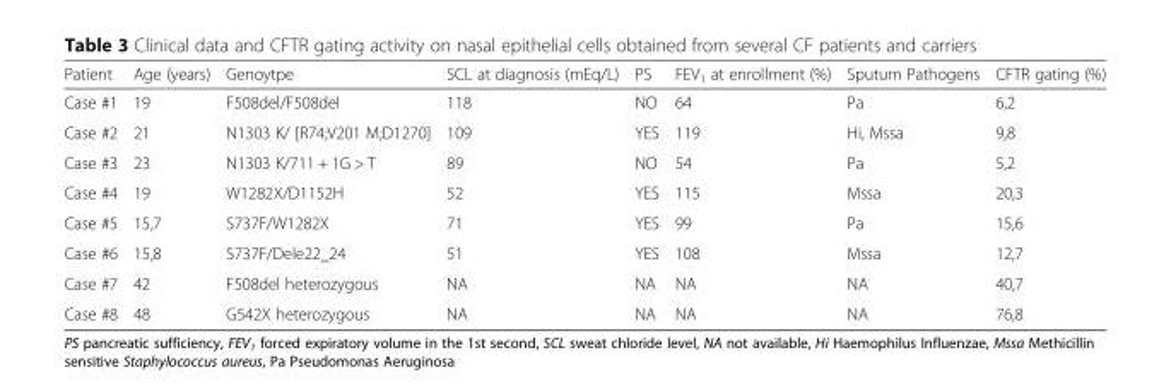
<table><thead><tr><td>Patient</td><td>Age (years)</td><td>Genoytpe</td><td>SCL at diagnosis (mEq/L)</td><td>PS</td><td>FEV<sub>1</sub> at enrollment (%)</td><td>Sputum Pathogens</td><td>CFTR gating (%)</td></tr></thead><tbody><tr><td>Case #1</td><td>19</td><td>F508del/F508del</td><td>118</td><td>NO</td><td>64</td><td>Pa</td><td>6,2</td></tr><tr><td>Case #2</td><td>21</td><td>N1303 K/ [R74;V201 M;D1270]</td><td>109</td><td>YES</td><td>119</td><td>Hi, Mssa</td><td>9,8</td></tr><tr><td>Case #3</td><td>23</td><td>N1303 K/711 + 1G &gt; T</td><td>89</td><td>NO</td><td>54</td><td>Pa</td><td>5,2</td></tr><tr><td>Case #4</td><td>19</td><td>W1282X/D1152H</td><td>52</td><td>YES</td><td>115</td><td>Mssa</td><td>20,3</td></tr><tr><td>Case #5</td><td>15,7</td><td>S737F/W1282X</td><td>71</td><td>YES</td><td>99</td><td>Pa</td><td>15,6</td></tr><tr><td>Case #6</td><td>15,8</td><td>S737F/Dele22_24</td><td>51</td><td>YES</td><td>108</td><td>Mssa</td><td>12,7</td></tr><tr><td>Case #7</td><td>42</td><td>F508del heterozygous</td><td>NA</td><td>NA</td><td>NA</td><td>NA</td><td>40,7</td></tr><tr><td>Case #8</td><td>48</td><td>G542X heterozygous</td><td>NA</td><td>NA</td><td>NA</td><td>NA</td><td>76,8</td></tr></tbody></table>